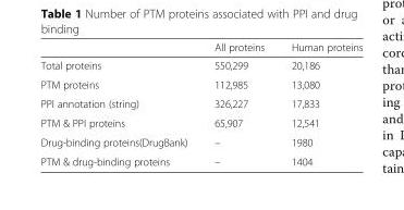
<table><thead><tr><td></td><td>All proteins</td><td>Human proteins</td></tr></thead><tbody><tr><td>Total proteins</td><td>550,299</td><td>20,186</td></tr><tr><td>PTM proteins</td><td>112,985</td><td>13,080</td></tr><tr><td>PPI annotation (string)</td><td>326,227</td><td>17,833</td></tr><tr><td>PTM &amp; PPI proteins</td><td>65,907</td><td>12,541</td></tr><tr><td>Drug-binding proteins(DrugBank)</td><td>–</td><td>1980</td></tr><tr><td>PTM &amp; drug-binding proteins</td><td>–</td><td>1404</td></tr></tbody></table>